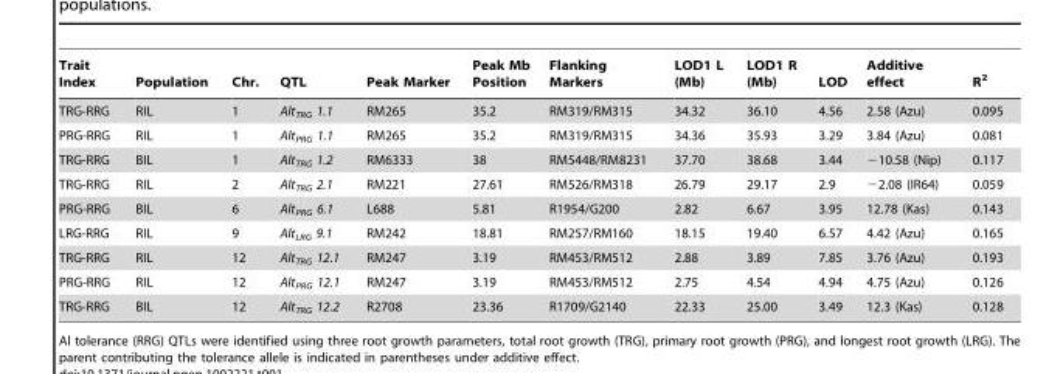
<table><thead><tr><td>Trait Index</td><td>Population</td><td>Chr.</td><td>QTL</td><td>Peak Marker</td><td>Peak Mb Position</td><td>Flanking Markers</td><td>LOD1 L (Mb)</td><td>LOD1 R (Mb)</td><td>LOD</td><td>Additive effect</td><td>R<sup>2</sup></td></tr></thead><tbody><tr><td>TRG-RRG</td><td>RIL</td><td>1</td><td>Alt<sub>TRG</sub> 1.1</td><td>RM265</td><td>35.2</td><td>RM319/RM315</td><td>34.32</td><td>36.10</td><td>4.56</td><td>2.58 (Azu)</td><td>0.095</td></tr><tr><td>PRG-RRG</td><td>RIL</td><td>1</td><td>Alt<sub>PRG</sub> 1.1</td><td>RM265</td><td>35.2</td><td>RM319/RM315</td><td>34.36</td><td>35.93</td><td>3.29</td><td>3.84 (Azu)</td><td>0.081</td></tr><tr><td>TRG-RRG</td><td>BIL</td><td>1</td><td>Alt<sub>TRG</sub> 1.2</td><td>RM6333</td><td>38</td><td>RM5448/RM8231</td><td>37.70</td><td>38.68</td><td>3.44</td><td>−10.58 (Nip)</td><td>0.117</td></tr><tr><td>TRG-RRG</td><td>RIL</td><td>2</td><td>Alt<sub>TRG</sub> 2.1</td><td>RM221</td><td>27.61</td><td>RM526/RM318</td><td>26.79</td><td>29.17</td><td>2.9</td><td>−2.08 (IR64)</td><td>0.059</td></tr><tr><td>PRG-RRG</td><td>BIL</td><td>6</td><td>Alt<sub>PRG</sub> 6.1</td><td>L688</td><td>5.81</td><td>R1954/G200</td><td>2.82</td><td>6.67</td><td>3.95</td><td>12.78 (Kas)</td><td>0.143</td></tr><tr><td>LRG-RRG</td><td>RIL</td><td>9</td><td>Alt<sub>LRG</sub> 9.1</td><td>RM242</td><td>18.81</td><td>RM257/RM160</td><td>18.15</td><td>19.40</td><td>6.57</td><td>4.42 (Azu)</td><td>0.165</td></tr><tr><td>TRG-RRG</td><td>RIL</td><td>12</td><td>Alt<sub>TRG</sub> 12.1</td><td>RM247</td><td>3.19</td><td>RM453/RM512</td><td>2.88</td><td>3.89</td><td>7.85</td><td>3.76 (Azu)</td><td>0.193</td></tr><tr><td>PRG-RRG</td><td>RIL</td><td>12</td><td>Alt<sub>PRG</sub> 12.1</td><td>RM247</td><td>3.19</td><td>RM453/RM512</td><td>2.75</td><td>4.54</td><td>4.94</td><td>4.75 (Azu)</td><td>0.126</td></tr><tr><td>TRG-RRG</td><td>BIL</td><td>12</td><td>Alt<sub>TRG</sub> 12.2</td><td>R2708</td><td>23.36</td><td>R1709/G2140</td><td>22.33</td><td>25.00</td><td>3.49</td><td>12.3 (Kas)</td><td>0.128</td></tr></tbody></table>